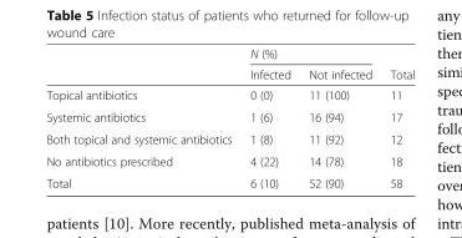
<table><thead><tr><td rowspan="2"></td><td colspan="2">N (%)</td><td rowspan="2">Total</td></tr><tr><td>Infected</td><td>Not infected</td></tr></thead><tbody><tr><td>Topical antibiotics</td><td>0 (0)</td><td>11 (100)</td><td>11</td></tr><tr><td>Systemic antibiotics</td><td>1 (6)</td><td>16 (94)</td><td>17</td></tr><tr><td>Both topical and systemic antibiotics</td><td>1 (8)</td><td>11 (92)</td><td>12</td></tr><tr><td>No antibiotics prescribed</td><td>4 (22)</td><td>14 (78)</td><td>18</td></tr><tr><td>Total</td><td>6 (10)</td><td>52 (90)</td><td>58</td></tr></tbody></table>